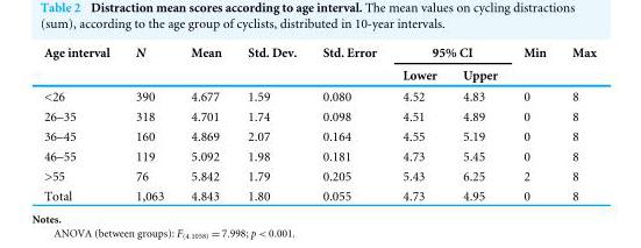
<table><thead><tr><td rowspan="2">Age interval</td><td rowspan="2">N</td><td rowspan="2">Mean</td><td rowspan="2">Std. Dev.</td><td rowspan="2">Std. Error</td><td colspan="2">95% CI</td><td rowspan="2">Min</td><td rowspan="2">Max</td></tr><tr><td>Lower</td><td>Upper</td></tr></thead><tbody><tr><td>&lt;26</td><td>390</td><td>4.677</td><td>1.59</td><td>0.080</td><td>4.52</td><td>4.83</td><td>0</td><td>8</td></tr><tr><td>26–35</td><td>318</td><td>4.701</td><td>1.74</td><td>0.098</td><td>4.51</td><td>4.89</td><td>0</td><td>8</td></tr><tr><td>36–45</td><td>160</td><td>4.869</td><td>2.07</td><td>0.164</td><td>4.55</td><td>5.19</td><td>0</td><td>8</td></tr><tr><td>46–55</td><td>119</td><td>5.092</td><td>1.98</td><td>0.181</td><td>4.73</td><td>5.45</td><td>0</td><td>8</td></tr><tr><td>&gt;55</td><td>76</td><td>5.842</td><td>1.79</td><td>0.205</td><td>5.43</td><td>6.25</td><td>2</td><td>8</td></tr><tr><td>Total</td><td>1,063</td><td>4.843</td><td>1.80</td><td>0.055</td><td>4.73</td><td>4.95</td><td>0</td><td>8</td></tr></tbody></table>